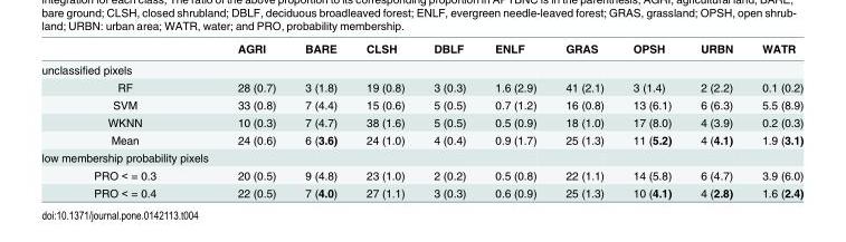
<table><thead><tr><td></td><td>AGRI</td><td>BARE</td><td>CLSH</td><td>DBLF</td><td>ENLF</td><td>GRAS</td><td>OPSH</td><td>URBN</td><td>WATR</td></tr></thead><tbody><tr><td colspan="10">unclassified pixels</td></tr><tr><td>RF</td><td>28 (0.7)</td><td>3 (1.8)</td><td>19 (0.8)</td><td>3 (0.3)</td><td>1.6 (2.9)</td><td>41 (2.1)</td><td>3 (1.4)</td><td>2 (2.2)</td><td>0.1 (0.2)</td></tr><tr><td>SVM</td><td>33 (0.8)</td><td>7 (4.4)</td><td>15 (0.6)</td><td>5 (0.5)</td><td>0.7 (1.2)</td><td>16 (0.8)</td><td>13 (6.1)</td><td>6 (6.3)</td><td>5.5 (8.9)</td></tr><tr><td>WKNN</td><td>10 (0.3)</td><td>7 (4.7)</td><td>38 (1.6)</td><td>5 (0.5)</td><td>0.5 (0.9)</td><td>18 (1.0)</td><td>17 (8.0)</td><td>4 (3.9)</td><td>0.2 (0.3)</td></tr><tr><td>Mean</td><td>24 (0.6)</td><td>6 (3.6)</td><td>24 (1.0)</td><td>4 (0.4)</td><td>0.9 (1.7)</td><td>25 (1.3)</td><td>11 (5.2)</td><td>4 (4.1)</td><td>1.9 (3.1)</td></tr><tr><td colspan="10">low membership probability pixels</td></tr><tr><td>PRO &lt; = 0.3</td><td>20 (0.5)</td><td>9 (4.8)</td><td>23 (1.0)</td><td>2 (0.2)</td><td>0.5 (0.8)</td><td>22 (1.1)</td><td>14 (5.8)</td><td>6 (4.7)</td><td>3.9 (6.0)</td></tr><tr><td>PRO &lt; = 0.4</td><td>22 (0.5)</td><td>7 (4.0)</td><td>27 (1.1)</td><td>3 (0.3)</td><td>0.6 (0.9)</td><td>25 (1.3)</td><td>10 (4.1)</td><td>4 (2.8)</td><td>1.6 (2.4)</td></tr></tbody></table>